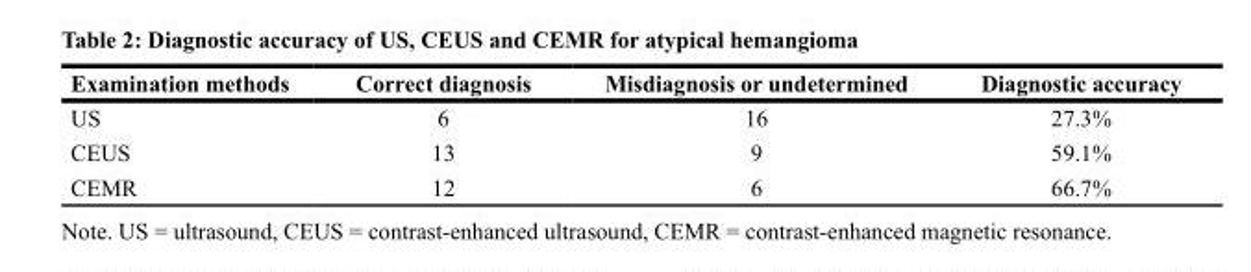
<table><thead><tr><td>Examination methods</td><td>Correct diagnosis</td><td>Misdiagnosis or undetermined</td><td>Diagnostic accuracy</td></tr></thead><tbody><tr><td>US</td><td>6</td><td>16</td><td>27.3%</td></tr><tr><td>CEUS</td><td>13</td><td>9</td><td>59.1%</td></tr><tr><td>CEMR</td><td>12</td><td>6</td><td>66.7%</td></tr></tbody></table>